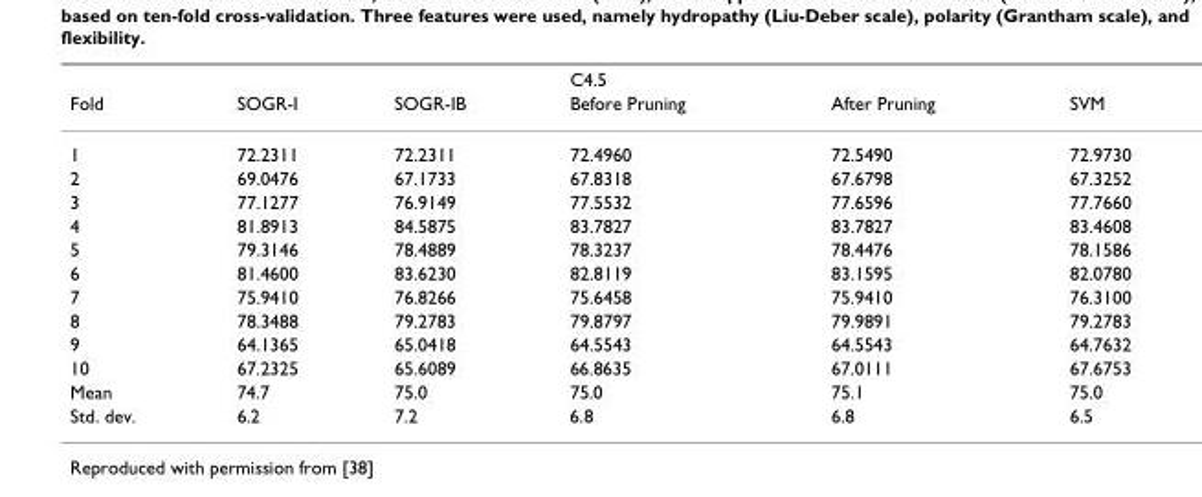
<table><thead><tr><td rowspan="2">Fold</td><td rowspan="2">SOGR-I</td><td rowspan="2">SOGR-IB</td><td colspan="2">C4.5</td><td rowspan="2">SVM</td></tr><tr><td>Before Pruning</td><td>After Pruning</td></tr></thead><tbody><tr><td>1</td><td>72.2311</td><td>72.2311</td><td>72.4960</td><td>72.5490</td><td>72.9730</td></tr><tr><td>2</td><td>69.0476</td><td>67.1733</td><td>67.8318</td><td>67.6798</td><td>67.3252</td></tr><tr><td>3</td><td>77.1277</td><td>76.9149</td><td>77.5532</td><td>77.6596</td><td>77.7660</td></tr><tr><td>4</td><td>81.8913</td><td>84.5875</td><td>83.7827</td><td>83.7827</td><td>83.4608</td></tr><tr><td>5</td><td>79.3146</td><td>78.4889</td><td>78.3237</td><td>78.4476</td><td>78.1586</td></tr><tr><td>6</td><td>81.4600</td><td>83.6230</td><td>82.8119</td><td>83.1595</td><td>82.0780</td></tr><tr><td>7</td><td>75.9410</td><td>76.8266</td><td>75.6458</td><td>75.9410</td><td>76.3100</td></tr><tr><td>8</td><td>78.3488</td><td>79.2783</td><td>79.8797</td><td>79.9891</td><td>79.2783</td></tr><tr><td>9</td><td>64.1365</td><td>65.0418</td><td>64.5543</td><td>64.5543</td><td>64.7632</td></tr><tr><td>10</td><td>67.2325</td><td>65.6089</td><td>66.8635</td><td>67.0111</td><td>67.6753</td></tr><tr><td>Mean</td><td>74.7</td><td>75.0</td><td>75.0</td><td>75.1</td><td>75.0</td></tr><tr><td>Std. dev.</td><td>6.2</td><td>7.2</td><td>6.8</td><td>6.8</td><td>6.5</td></tr></tbody></table>